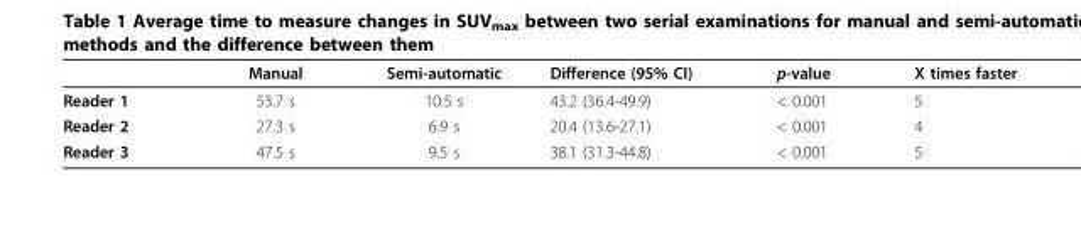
<table><thead><tr><td></td><td>Manual</td><td>Semi-automatic</td><td>Difference (95% CI)</td><td>p-value</td><td>X times faster</td></tr></thead><tbody><tr><td>Reader 1</td><td>53.7 s</td><td>10.5 s</td><td>43.2 (36.4-49.9)</td><td>&lt; 0.001</td><td>5</td></tr><tr><td>Reader 2</td><td>27.3 s</td><td>6.9 s</td><td>20.4 (13.6-27.1)</td><td>&lt; 0.001</td><td>4</td></tr><tr><td>Reader 3</td><td>47.5 s</td><td>9.5 s</td><td>38.1 (31.3-44.8)</td><td>&lt; 0.001</td><td>5</td></tr></tbody></table>